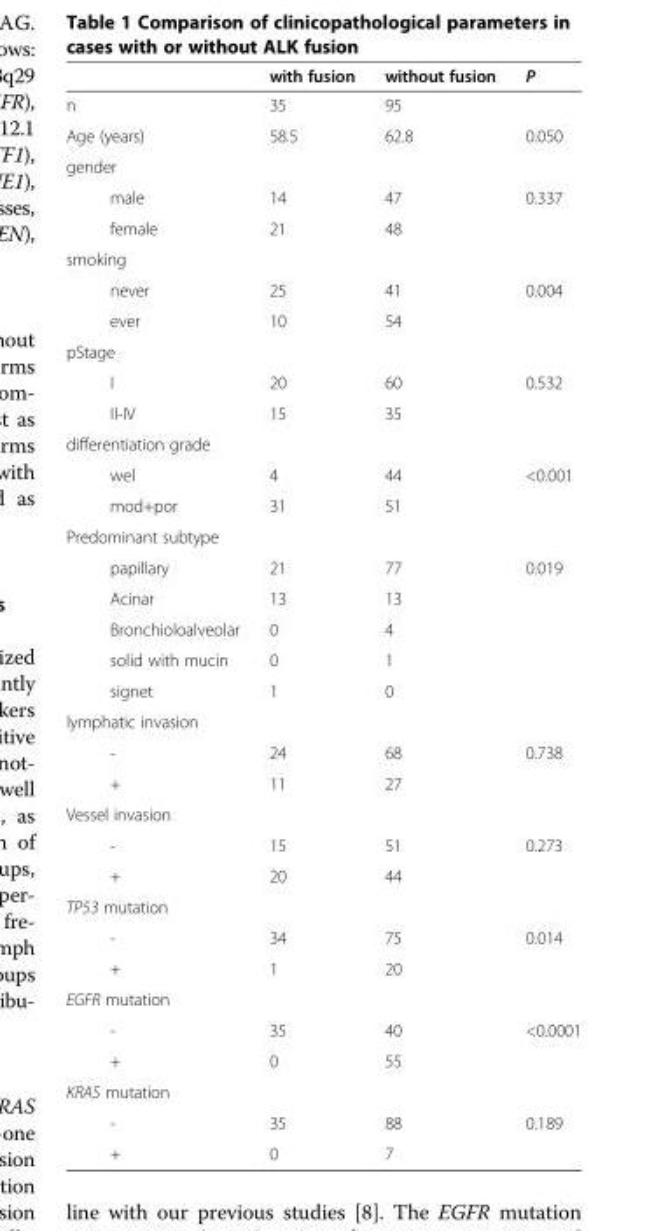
<table><thead><tr><td></td><td>with fusion</td><td>without fusion</td><td>P</td></tr></thead><tbody><tr><td>n</td><td>35</td><td>95</td><td></td></tr><tr><td>Age (years)</td><td>58.5</td><td>62.8</td><td>0.050</td></tr><tr><td colspan="4">gender</td></tr><tr><td>male</td><td>14</td><td>47</td><td>0.337</td></tr><tr><td>female</td><td>21</td><td>48</td><td></td></tr><tr><td colspan="4">smoking</td></tr><tr><td>never</td><td>25</td><td>41</td><td>0.004</td></tr><tr><td>ever</td><td>10</td><td>54</td><td></td></tr><tr><td colspan="4">pStage</td></tr><tr><td>I</td><td>20</td><td>60</td><td>0.532</td></tr><tr><td>II-IV</td><td>15</td><td>35</td><td></td></tr><tr><td colspan="4">differentiation grade</td></tr><tr><td>wel</td><td>4</td><td>44</td><td>&lt;0.001</td></tr><tr><td>mod+por</td><td>31</td><td>51</td><td></td></tr><tr><td colspan="4">Predominant subtype</td></tr><tr><td>papillary</td><td>21</td><td>77</td><td>0.019</td></tr><tr><td>Acinar</td><td>13</td><td>13</td><td></td></tr><tr><td>Bronchioloalveolar</td><td>0</td><td>4</td><td></td></tr><tr><td>solid with mucin</td><td>0</td><td>1</td><td></td></tr><tr><td>signet</td><td>1</td><td>0</td><td></td></tr><tr><td colspan="4">lymphatic invasion</td></tr><tr><td>-</td><td>24</td><td>68</td><td>0.738</td></tr><tr><td>+</td><td>11</td><td>27</td><td></td></tr><tr><td colspan="4">Vessel invasion</td></tr><tr><td>-</td><td>15</td><td>51</td><td>0.273</td></tr><tr><td>+</td><td>20</td><td>44</td><td></td></tr><tr><td colspan="4">TP53 mutation</td></tr><tr><td>-</td><td>34</td><td>75</td><td>0.014</td></tr><tr><td>+</td><td>1</td><td>20</td><td></td></tr><tr><td colspan="4">EGFR mutation</td></tr><tr><td>-</td><td>35</td><td>40</td><td>&lt;0.0001</td></tr><tr><td>+</td><td>0</td><td>55</td><td></td></tr><tr><td colspan="4">KRAS mutation</td></tr><tr><td>-</td><td>35</td><td>88</td><td>0.189</td></tr><tr><td>+</td><td>0</td><td>7</td><td></td></tr></tbody></table>